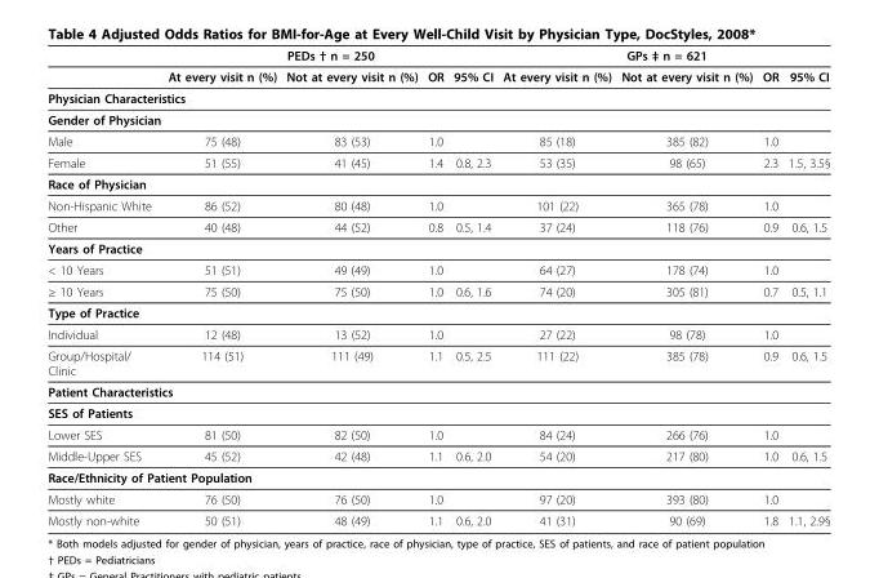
<table><thead><tr><td rowspan="2"></td><td colspan="4">PEDs † n = 250</td><td colspan="4">GPs ‡ n = 621</td></tr><tr><td>At every visit n (%)</td><td>Not at every visit n (%)</td><td>OR</td><td>95% CI</td><td>At every visit n (%)</td><td>Not at every visit n (%)</td><td>OR</td><td>95% CI</td></tr></thead><tbody><tr><td colspan="9">Physician Characteristics</td></tr><tr><td colspan="9">Gender of Physician</td></tr><tr><td>Male</td><td>75 (48)</td><td>83 (53)</td><td>1.0</td><td></td><td>85 (18)</td><td>385 (82)</td><td>1.0</td><td></td></tr><tr><td>Female</td><td>51 (55)</td><td>41 (45)</td><td>1.4</td><td>0.8, 2.3</td><td>53 (35)</td><td>98 (65)</td><td>2.3</td><td>1.5, 3.5§</td></tr><tr><td colspan="9">Race of Physician</td></tr><tr><td>Non-Hispanic White</td><td>86 (52)</td><td>80 (48)</td><td>1.0</td><td></td><td>101 (22)</td><td>365 (78)</td><td>1.0</td><td></td></tr><tr><td>Other</td><td>40 (48)</td><td>44 (52)</td><td>0.8</td><td>0.5, 1.4</td><td>37 (24)</td><td>118 (76)</td><td>0.9</td><td>0.6, 1.5</td></tr><tr><td colspan="9">Years of Practice</td></tr><tr><td>&lt; 10 Years</td><td>51 (51)</td><td>49 (49)</td><td>1.0</td><td></td><td>64 (27)</td><td>178 (74)</td><td>1.0</td><td></td></tr><tr><td>≥ 10 Years</td><td>75 (50)</td><td>75 (50)</td><td>1.0</td><td>0.6, 1.6</td><td>74 (20)</td><td>305 (81)</td><td>0.7</td><td>0.5, 1.1</td></tr><tr><td colspan="9">Type of Practice</td></tr><tr><td>Individual</td><td>12 (48)</td><td>13 (52)</td><td>1.0</td><td></td><td>27 (22)</td><td>98 (78)</td><td>1.0</td><td></td></tr><tr><td>Group/Hospital/ Clinic</td><td>114 (51)</td><td>111 (49)</td><td>1.1</td><td>0.5, 2.5</td><td>111 (22)</td><td>385 (78)</td><td>0.9</td><td>0.6, 1.5</td></tr><tr><td colspan="9">Patient Characteristics</td></tr><tr><td colspan="9">SES of Patients</td></tr><tr><td>Lower SES</td><td>81 (50)</td><td>82 (50)</td><td>1.0</td><td></td><td>84 (24)</td><td>266 (76)</td><td>1.0</td><td></td></tr><tr><td>Middle-Upper SES</td><td>45 (52)</td><td>42 (48)</td><td>1.1</td><td>0.6, 2.0</td><td>54 (20)</td><td>217 (80)</td><td>1.0</td><td>0.6, 1.5</td></tr><tr><td colspan="9">Race/Ethnicity of Patient Population</td></tr><tr><td>Mostly white</td><td>76 (50)</td><td>76 (50)</td><td>1.0</td><td></td><td>97 (20)</td><td>393 (80)</td><td>1.0</td><td></td></tr><tr><td>Mostly non-white</td><td>50 (51)</td><td>48 (49)</td><td>1.1</td><td>0.6, 2.0</td><td>41 (31)</td><td>90 (69)</td><td>1.8</td><td>1.1, 2.9§</td></tr></tbody></table>